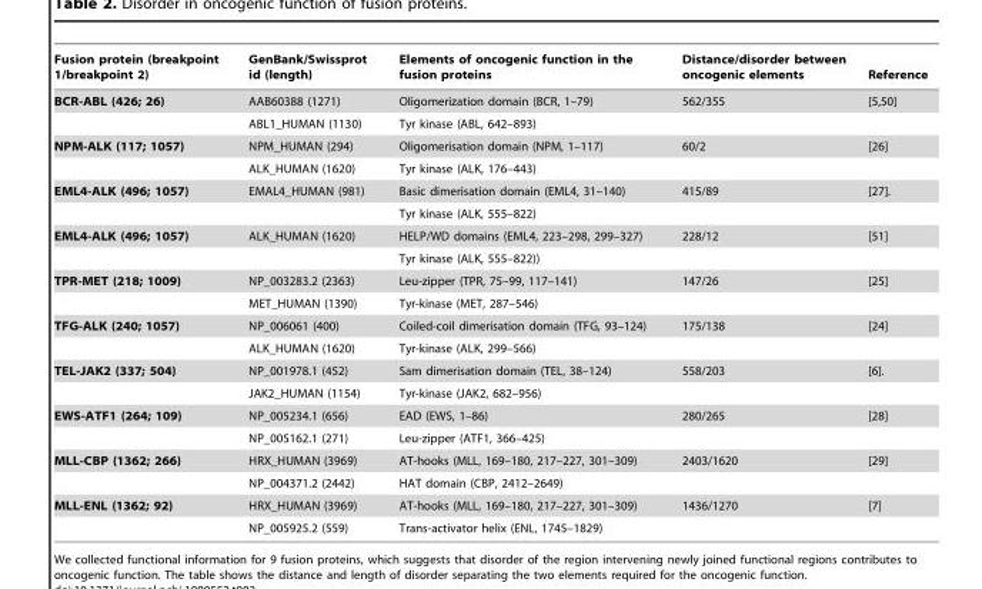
<table><thead><tr><td>Fusion protein (breakpoint 1/breakpoint 2)</td><td>GenBank/Swissprot id (length)</td><td>Elements of oncogenic function in the fusion proteins</td><td>Distance/disorder between oncogenic elements</td><td>Reference</td></tr></thead><tbody><tr><td rowspan="2">BCR-ABL (426; 26)</td><td>AAB60388 (1271)</td><td>Oligomerization domain (BCR, 1–79)</td><td>562/355</td><td>[5,50]</td></tr><tr><td>ABL1_HUMAN (1130)</td><td>Tyr kinase (ABL, 642–893)</td><td></td><td></td></tr><tr><td rowspan="2">NPM-ALK (117; 1057)</td><td>NPM_HUMAN (294)</td><td>Oligomerisation domain (NPM, 1–117)</td><td>60/2</td><td>[26]</td></tr><tr><td>ALK_HUMAN (1620)</td><td>Tyr kinase (ALK, 176–443)</td><td></td><td></td></tr><tr><td rowspan="2">EML4-ALK (496; 1057)</td><td>EMAL4_HUMAN (981)</td><td>Basic dimerisation domain (EML4, 31–140)</td><td>415/89</td><td>[27].</td></tr><tr><td></td><td>Tyr kinase (ALK, 555–822)</td><td></td><td></td></tr><tr><td rowspan="2">EML4-ALK (496; 1057)</td><td>ALK_HUMAN (1620)</td><td>HELP/WD domains (EML4, 223–298, 299–327)</td><td>228/12</td><td>[51]</td></tr><tr><td></td><td>Tyr kinase (ALK, 555–822))</td><td></td><td></td></tr><tr><td rowspan="2">TPR-MET (218; 1009)</td><td>NP_003283.2 (2363)</td><td>Leu-zipper (TPR, 75–99, 117–141)</td><td>147/26</td><td>[25]</td></tr><tr><td>MET_HUMAN (1390)</td><td>Tyr-kinase (MET, 287–546)</td><td></td><td></td></tr><tr><td rowspan="2">TFG-ALK (240; 1057)</td><td>NP_006061 (400)</td><td>Coiled-coil dimerisation domain (TFG, 93–124)</td><td>175/138</td><td>[24]</td></tr><tr><td>ALK_HUMAN (1620)</td><td>Tyr-kinase (ALK, 299–566)</td><td></td><td></td></tr><tr><td rowspan="2">TEL-JAK2 (337; 504)</td><td>NP_001978.1 (452)</td><td>Sam dimerisation domain (TEL, 38–124)</td><td>558/203</td><td>[6].</td></tr><tr><td>JAK2_HUMAN (1154)</td><td>Tyr-kinase (JAK2, 682–956)</td><td></td><td></td></tr><tr><td rowspan="2">EWS-ATF1 (264; 109)</td><td>NP_005234.1 (656)</td><td>EAD (EWS, 1–86)</td><td>280/265</td><td>[28]</td></tr><tr><td>NP_005162.1 (271)</td><td>Leu-zipper (ATF1, 366–425)</td><td></td><td></td></tr><tr><td rowspan="2">MLL-CBP (1362; 266)</td><td>HRX_HUMAN (3969)</td><td>AT-hooks (MLL, 169–180, 217–227, 301–309)</td><td>2403/1620</td><td>[29]</td></tr><tr><td>NP_004371.2 (2442)</td><td>HAT domain (CBP, 2412–2649)</td><td></td><td></td></tr><tr><td rowspan="2">MLL-ENL (1362; 92)</td><td>HRX_HUMAN (3969)</td><td>AT-hooks (MLL, 169–180, 217–227, 301–309)</td><td>1436/1270</td><td>[7]</td></tr><tr><td>NP_005925.2 (559)</td><td>Trans-activator helix (ENL, 1745–1829)</td><td></td><td></td></tr></tbody></table>